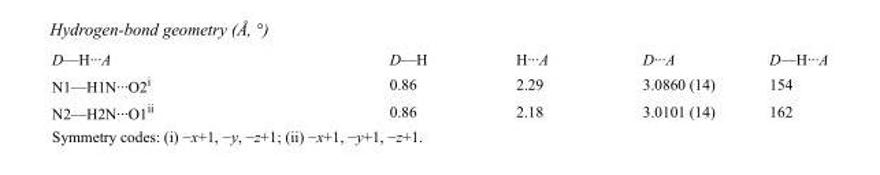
<table><tbody><tr><td>D—H···A</td><td>D—H</td><td>H···A</td><td>D···A</td><td>D—H···A</td></tr><tr><td>N1—H1N···O2<sup>i</sup></td><td>0.86</td><td>2.29</td><td>3.0860 (14)</td><td>154</td></tr><tr><td>N2—H2N···O1<sup>ii</sup></td><td>0.86</td><td>2.18</td><td>3.0101 (14)</td><td>162</td></tr></tbody></table>